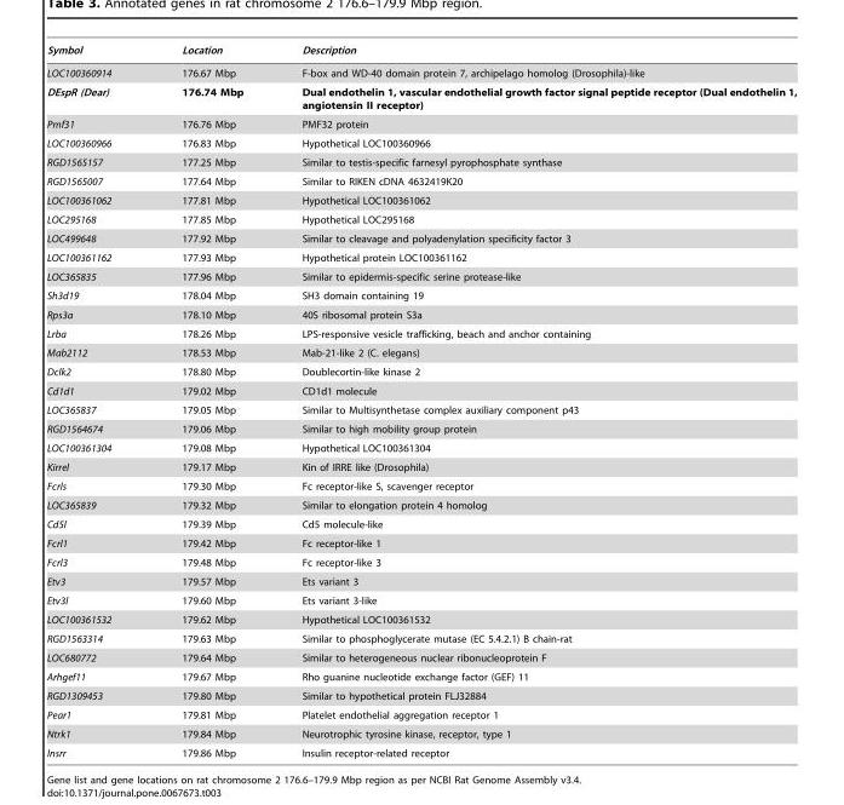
<table><thead><tr><td>Symbol</td><td>Location</td><td>Description</td></tr></thead><tbody><tr><td>LOC100360914</td><td>176.67 Mbp</td><td>F-box and WD-40 domain protein 7, archipelago homolog (Drosophila)-like</td></tr><tr><td>DEspR (Dear)</td><td>176.74 Mbp</td><td>Dual endothelin 1, vascular endothelial growth factor signal peptide receptor (Dual endothelin 1, angiotensin II receptor)</td></tr><tr><td>Pmf31</td><td>176.76 Mbp</td><td>PMF32 protein</td></tr><tr><td>LOC100360966</td><td>176.83 Mbp</td><td>Hypothetical LOC100360966</td></tr><tr><td>RGD1565157</td><td>177.25 Mbp</td><td>Similar to testis-specific farnesyl pyrophosphate synthase</td></tr><tr><td>RGD1565007</td><td>177.64 Mbp</td><td>Similar to RIKEN cDNA 4632419K20</td></tr><tr><td>LOC100361062</td><td>177.81 Mbp</td><td>Hypothetical LOC100361062</td></tr><tr><td>LOC295168</td><td>177.85 Mbp</td><td>Hypothetical LOC295168</td></tr><tr><td>LOC499648</td><td>177.92 Mbp</td><td>Similar to cleavage and polyadenylation specificity factor 3</td></tr><tr><td>LOC100361162</td><td>177.93 Mbp</td><td>Hypothetical protein LOC100361162</td></tr><tr><td>LOC365835</td><td>177.96 Mbp</td><td>Similar to epidermis-specific serine protease-like</td></tr><tr><td>Sh3d19</td><td>178.04 Mbp</td><td>SH3 domain containing 19</td></tr><tr><td>Rps3a</td><td>178.10 Mbp</td><td>40S ribosomal protein S3a</td></tr><tr><td>Lrba</td><td>178.26 Mbp</td><td>LPS-responsive vesicle trafficking, beach and anchor containing</td></tr><tr><td>Mab2112</td><td>178.53 Mbp</td><td>Mab-21-like 2 (C. elegans)</td></tr><tr><td>Dclk2</td><td>178.80 Mbp</td><td>Doublecortin-like kinase 2</td></tr><tr><td>Cd1d1</td><td>179.02 Mbp</td><td>CD1d1 molecule</td></tr><tr><td>LOC365837</td><td>179.05 Mbp</td><td>Similar to Multisynthetase complex auxiliary component p43</td></tr><tr><td>RGD1564674</td><td>179.06 Mbp</td><td>Similar to high mobility group protein</td></tr><tr><td>LOC100361304</td><td>179.08 Mbp</td><td>Hypothetical LOC100361304</td></tr><tr><td>Kirrel</td><td>179.17 Mbp</td><td>Kin of IRRE like (Drosophila)</td></tr><tr><td>Fcrls</td><td>179.30 Mbp</td><td>Fc receptor-like S, scavenger receptor</td></tr><tr><td>LOC365839</td><td>179.32 Mbp</td><td>Similar to elongation protein 4 homolog</td></tr><tr><td>Cd5l</td><td>179.39 Mbp</td><td>Cd5 molecule-like</td></tr><tr><td>Fcrl1</td><td>179.42 Mbp</td><td>Fc receptor-like 1</td></tr><tr><td>Fcrl3</td><td>179.48 Mbp</td><td>Fc receptor-like 3</td></tr><tr><td>Etv3</td><td>179.57 Mbp</td><td>Ets variant 3</td></tr><tr><td>Etv3l</td><td>179.60 Mbp</td><td>Ets variant 3-like</td></tr><tr><td>LOC100361532</td><td>179.62 Mbp</td><td>Hypothetical LOC100361532</td></tr><tr><td>RGD1563314</td><td>179.63 Mbp</td><td>Similar to phosphoglycerate mutase (EC 5.4.2.1) B chain-rat</td></tr><tr><td>LOC680772</td><td>179.64 Mbp</td><td>Similar to heterogeneous nuclear ribonucleoprotein F</td></tr><tr><td>Arhgef11</td><td>179.67 Mbp</td><td>Rho guanine nucleotide exchange factor (GEF) 11</td></tr><tr><td>RGD1309453</td><td>179.80 Mbp</td><td>Similar to hypothetical protein FLJ32884</td></tr><tr><td>Pear1</td><td>179.81 Mbp</td><td>Platelet endothelial aggregation receptor 1</td></tr><tr><td>Ntrk1</td><td>179.84 Mbp</td><td>Neurotrophic tyrosine kinase, receptor, type 1</td></tr><tr><td>Insrr</td><td>179.86 Mbp</td><td>Insulin receptor-related receptor</td></tr></tbody></table>